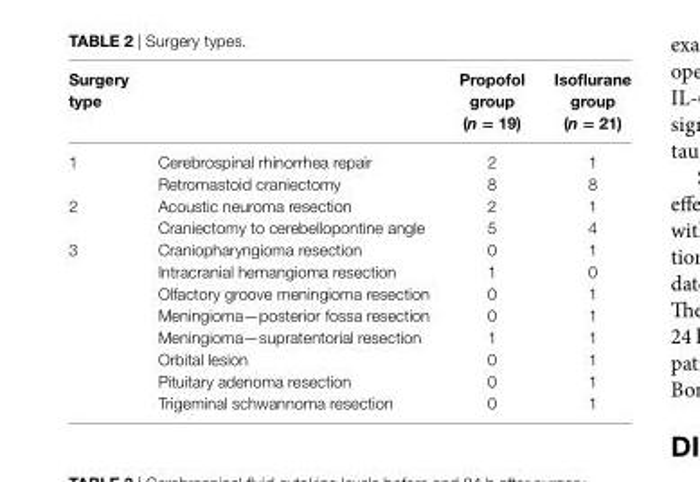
<table><thead><tr><td>Surgery type</td><td></td><td>Propofol group (n = 19)</td><td>isoflurane group (n = 21)</td></tr></thead><tbody><tr><td rowspan="2">1</td><td>Cerebrospinal rhinorrhea repair</td><td>2</td><td>1</td></tr><tr><td>Retromastoid craniectomy</td><td>8</td><td>8</td></tr><tr><td rowspan="2">2</td><td>Acoustic neuroma resection</td><td>2</td><td>1</td></tr><tr><td>Craniectomy to cerebellopontine angle</td><td>5</td><td>4</td></tr><tr><td rowspan="8">3</td><td>Craniopharyngioma resection</td><td>0</td><td>1</td></tr><tr><td>Intracranial hemangioma resection</td><td>1</td><td>0</td></tr><tr><td>Olfactory groove meningioma resection</td><td>0</td><td>1</td></tr><tr><td>Meningioma—posterior fossa resection</td><td>0</td><td>1</td></tr><tr><td>Meningioma—supratentorial resection</td><td>1</td><td>1</td></tr><tr><td>Orbital lesion</td><td>0</td><td>1</td></tr><tr><td>Pituitary adenoma resection</td><td>0</td><td>1</td></tr><tr><td>Trigeminal schwannoma resection</td><td>0</td><td>1</td></tr></tbody></table>